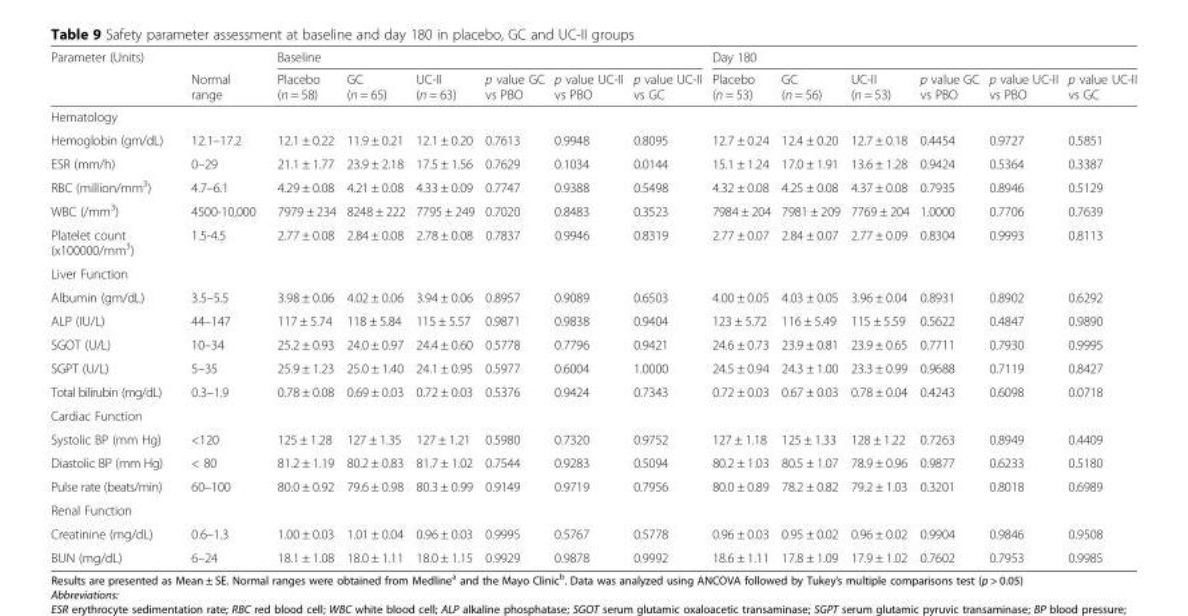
<table><thead><tr><td rowspan="2">Parameter (Units)</td><td rowspan="2">Normal range</td><td colspan="6">Baseline</td><td colspan="6">Day 180</td></tr><tr><td>Placebo (n = 58)</td><td>GC (n = 65)</td><td>UC-II (n = 63)</td><td>p value GC vs PBO</td><td>p value UC-II vs PBO</td><td>p value UC-II vs GC</td><td>Placebo (n = 53)</td><td>GC (n = 56)</td><td>UC-II (n = 53)</td><td>p value GC vs PBO</td><td>p value UC-II vs PBO</td><td>p value UC-II vs GC</td></tr></thead><tbody><tr><td colspan="14">Hematology</td></tr><tr><td>Hemoglobin (gm/dL)</td><td>12.1–17.2</td><td>12.1 ± 0.22</td><td>11.9 ± 0.21</td><td>12.1 ± 0.20</td><td>0.7613</td><td>0.9948</td><td>0.8095</td><td>12.7 ± 0.24</td><td>12.4 ± 0.20</td><td>12.7 ± 0.18</td><td>0.4454</td><td>0.9727</td><td>0.5851</td></tr><tr><td>ESR (mm/h)</td><td>0–29</td><td>21.1 ± 1.77</td><td>23.9 ± 2.18</td><td>17.5 ± 1.56</td><td>0.7629</td><td>0.1034</td><td>0.0144</td><td>15.1 ± 1.24</td><td>17.0 ± 1.91</td><td>13.6 ± 1.28</td><td>0.9424</td><td>0.5364</td><td>0.3387</td></tr><tr><td>RBC (million/mm<sup>3</sup>)</td><td>4.7–6.1</td><td>4.29 ± 0.08</td><td>4.21 ± 0.08</td><td>4.33 ± 0.09</td><td>0.7747</td><td>0.9388</td><td>0.5498</td><td>4.32 ± 0.08</td><td>4.25 ± 0.08</td><td>4.37 ± 0.08</td><td>0.7935</td><td>0.8946</td><td>0.5129</td></tr><tr><td>WBC (/mm<sup>3</sup>)</td><td>4500-10,000</td><td>7979 ± 234</td><td>8248 ± 222</td><td>7795 ± 249</td><td>0.7020</td><td>0.8483</td><td>0.3523</td><td>7984 ± 204</td><td>7981 ± 209</td><td>7769 ± 204</td><td>1.0000</td><td>0.7706</td><td>0.7639</td></tr><tr><td>Platelet count (x100000/mm<sup>3</sup>)</td><td>1.5-4.5</td><td>2.77 ± 0.08</td><td>2.84 ± 0.08</td><td>2.78 ± 0.08</td><td>0.7837</td><td>0.9946</td><td>0.8319</td><td>2.77 ± 0.07</td><td>2.84 ± 0.07</td><td>2.77 ± 0.09</td><td>0.8304</td><td>0.9993</td><td>0.8113</td></tr><tr><td colspan="14">Liver Function</td></tr><tr><td>Albumin (gm/dL)</td><td>3.5–5.5</td><td>3.98 ± 0.06</td><td>4.02 ± 0.06</td><td>3.94 ± 0.06</td><td>0.8957</td><td>0.9089</td><td>0.6503</td><td>4.00 ± 0.05</td><td>4.03 ± 0.05</td><td>3.96 ± 0.04</td><td>0.8931</td><td>0.8902</td><td>0.6292</td></tr><tr><td>ALP (IU/L)</td><td>44–147</td><td>117 ± 5.74</td><td>118 ± 5.84</td><td>115 ± 5.57</td><td>0.9871</td><td>0.9838</td><td>0.9404</td><td>123 ± 5.72</td><td>116 ± 5.49</td><td>115 ± 5.59</td><td>0.5622</td><td>0.4847</td><td>0.9890</td></tr><tr><td>SGOT (U/L)</td><td>10–34</td><td>25.2 ± 0.93</td><td>24.0 ± 0.97</td><td>24.4 ± 0.60</td><td>0.5778</td><td>0.7796</td><td>0.9421</td><td>24.6 ± 0.73</td><td>23.9 ± 0.81</td><td>23.9 ± 0.65</td><td>0.7711</td><td>0.7930</td><td>0.9995</td></tr><tr><td>SGPT (U/L)</td><td>5–35</td><td>25.9 ± 1.23</td><td>25.0 ± 1.40</td><td>24.1 ± 0.95</td><td>0.5977</td><td>0.6004</td><td>1.0000</td><td>24.5 ± 0.94</td><td>24.3 ± 1.00</td><td>23.3 ± 0.99</td><td>0.9688</td><td>0.7119</td><td>0.8427</td></tr><tr><td>Total bilirubin (mg/dL)</td><td>0.3–1.9</td><td>0.78 ± 0.08</td><td>0.69 ± 0.03</td><td>0.72 ± 0.03</td><td>0.5376</td><td>0.9424</td><td>0.7343</td><td>0.72 ± 0.03</td><td>0.67 ± 0.03</td><td>0.78 ± 0.04</td><td>0.4243</td><td>0.6098</td><td>0.0718</td></tr><tr><td colspan="14">Cardiac Function</td></tr><tr><td>Systolic BP (mm Hg)</td><td>&lt;120</td><td>125 ± 1.28</td><td>127 ± 1.35</td><td>127 ± 1.21</td><td>0.5980</td><td>0.7320</td><td>0.9752</td><td>127 ± 1.18</td><td>125 ± 1.33</td><td>128 ± 1.22</td><td>0.7263</td><td>0.8949</td><td>0.4409</td></tr><tr><td>Diastolic BP (mm Hg)</td><td>&lt; 80</td><td>81.2 ± 1.19</td><td>80.2 ± 0.83</td><td>81.7 ± 1.02</td><td>0.7544</td><td>0.9283</td><td>0.5094</td><td>80.2 ± 1.03</td><td>80.5 ± 1.07</td><td>78.9 ± 0.96</td><td>0.9877</td><td>0.6233</td><td>0.5180</td></tr><tr><td>Pulse rate (beats/min)</td><td>60–100</td><td>80.0 ± 0.92</td><td>79.6 ± 0.98</td><td>80.3 ± 0.99</td><td>0.9149</td><td>0.9719</td><td>0.7956</td><td>80.0 ± 0.89</td><td>78.2 ± 0.82</td><td>79.2 ± 1.03</td><td>0.3201</td><td>0.8018</td><td>0.6989</td></tr><tr><td colspan="14">Renal Function</td></tr><tr><td>Creatinine (mg/dL)</td><td>0.6–1.3</td><td>1.00 ± 0.03</td><td>1.01 ± 0.04</td><td>0.96 ± 0.03</td><td>0.9995</td><td>0.5767</td><td>0.5778</td><td>0.96 ± 0.03</td><td>0.95 ± 0.02</td><td>0.96 ± 0.02</td><td>0.9904</td><td>0.9846</td><td>0.9508</td></tr><tr><td>BUN (mg/dL)</td><td>6–24</td><td>18.1 ± 1.08</td><td>18.0 ± 1.11</td><td>18.0 ± 1.15</td><td>0.9929</td><td>0.9878</td><td>0.9992</td><td>18.6 ± 1.11</td><td>17.8 ± 1.09</td><td>17.9 ± 1.02</td><td>0.7602</td><td>0.7953</td><td>0.9985</td></tr></tbody></table>